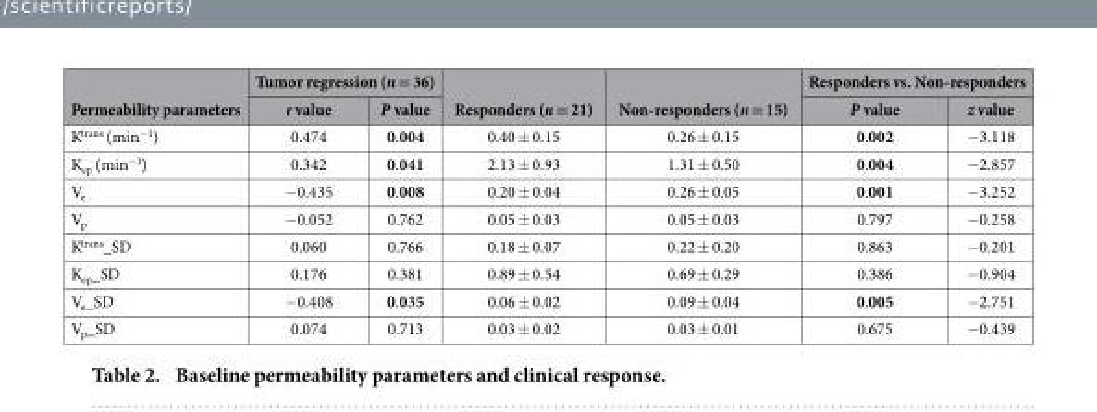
<table><thead><tr><td rowspan="2">Permeability parameters</td><td colspan="2">Tumor regression (n = 36)</td><td rowspan="2">Responders (n = 21)</td><td rowspan="2">Non-responders (n = 15)</td><td colspan="2">Responders vs. Non-responders</td></tr><tr><td>r value</td><td>P value</td><td>P value</td><td>z value</td></tr></thead><tbody><tr><td>K<sup>trans</sup> (min<sup>−1</sup>)</td><td>0.474</td><td>0.004</td><td>0.40 ± 0.15</td><td>0.26 ± 0.15</td><td>0.002</td><td>− 3.118</td></tr><tr><td>K<sub>ep</sub> (min<sup>−1</sup>)</td><td>0.342</td><td>0.041</td><td>2.13 ± 0.93</td><td>1.31 ± 0.50</td><td>0.004</td><td>− 2.857</td></tr><tr><td>V<sub>e</sub></td><td>− 0.435</td><td>0.008</td><td>0.20 ± 0.04</td><td>0.26 ± 0.05</td><td>0.001</td><td>− 3.252</td></tr><tr><td>V<sub>p</sub></td><td>− 0.052</td><td>0.762</td><td>0.05 ± 0.03</td><td>0.05 ± 0.03</td><td>0.797</td><td>− 0.258</td></tr><tr><td>K<sup>trans</sup>_SD</td><td>0.060</td><td>0.766</td><td>0.18 ± 0.07</td><td>0.22 ± 0.20</td><td>0.863</td><td>− 0.201</td></tr><tr><td>Kep_SD</td><td>0.176</td><td>0.381</td><td>0.89 ± 0.54</td><td>0.69 ± 0.29</td><td>0.386</td><td>− 0.904</td></tr><tr><td>Ve_SD</td><td>− 0.408</td><td>0.035</td><td>0.06 ± 0.02</td><td>0.09 ± 0.04</td><td>0.005</td><td>− 2.751</td></tr><tr><td>Vp_SD</td><td>0.074</td><td>0.713</td><td>0.03 ± 0.02</td><td>0.03 ± 0.01</td><td>0.675</td><td>− 0.439</td></tr></tbody></table>